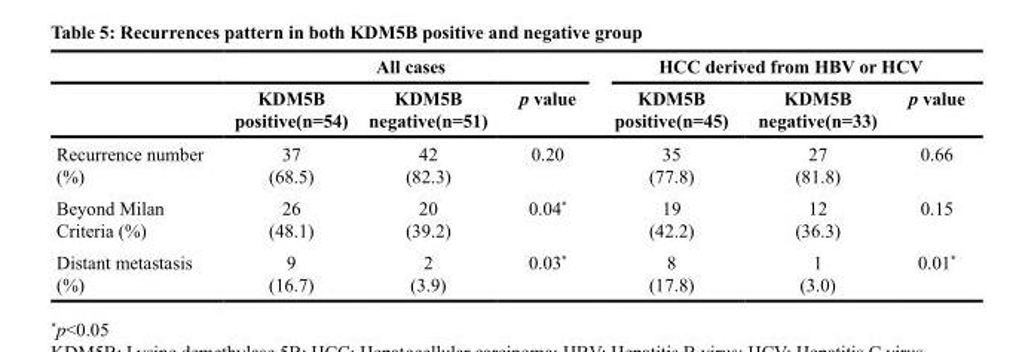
<table><thead><tr><td rowspan="2"></td><td colspan="3">All cases</td><td colspan="3">HCC derived from HBV or HCV</td></tr><tr><td>KDM5B positive(n=54)</td><td>KDM5B negative(n=51)</td><td>p value</td><td>KDM5B positive(n=45)</td><td>KDM5B negative(n=33)</td><td>p value</td></tr></thead><tbody><tr><td>Recurrence number (%)</td><td>37 (68.5)</td><td>42 (82.3)</td><td>0.20</td><td>35 (77.8)</td><td>27 (81.8)</td><td>0.66</td></tr><tr><td>Beyond Milan Criteria (%)</td><td>26 (48.1)</td><td>20 (39.2)</td><td>0.04*</td><td>19 (42.2)</td><td>12 (36.3)</td><td>0.15</td></tr><tr><td>Distant metastasis (%)</td><td>9 (16.7)</td><td>2 (3.9)</td><td>0.03*</td><td>8 (17.8)</td><td>1 (3.0)</td><td>0.01*</td></tr></tbody></table>